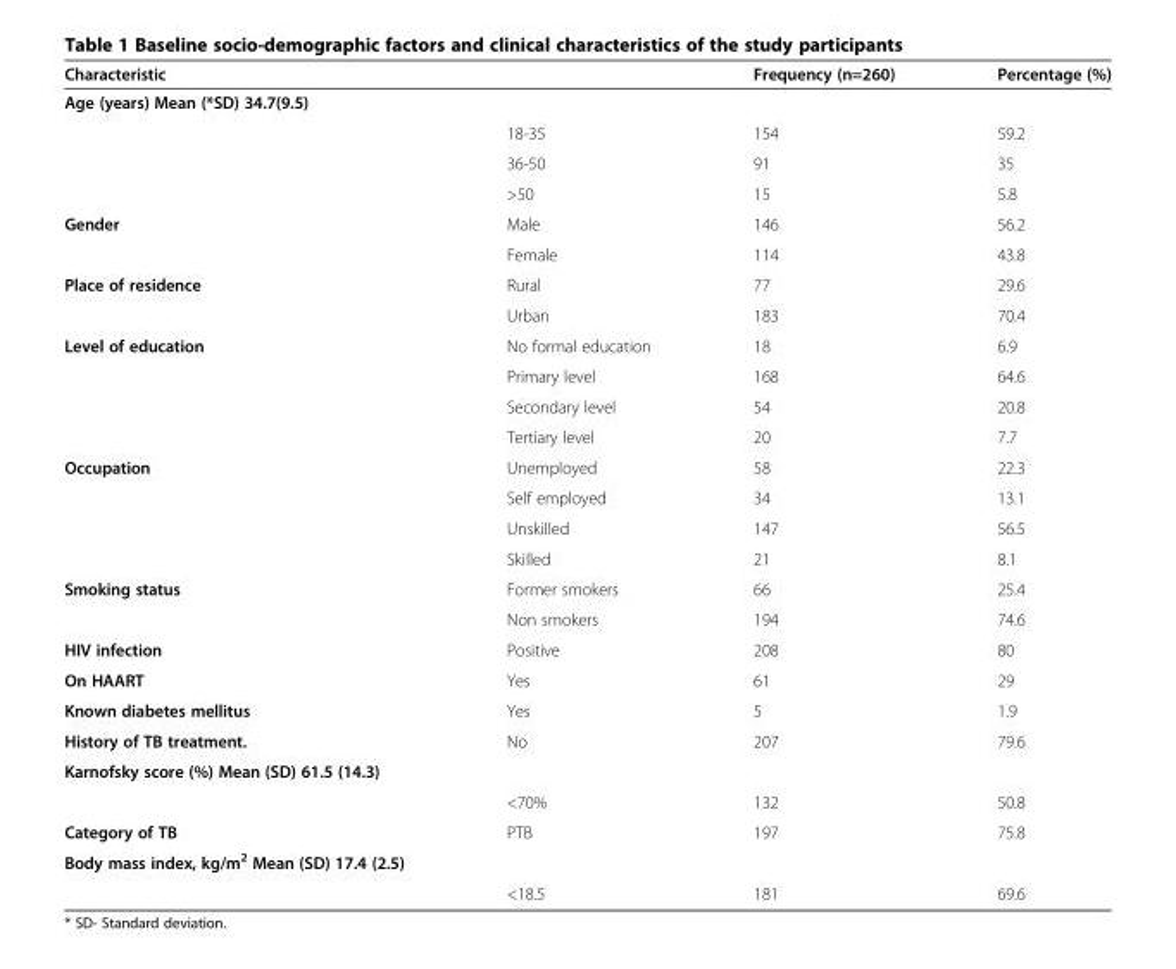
<table><thead><tr><td>Characteristic</td><td></td><td>Frequency (n=260)</td><td>Percentage (%)</td></tr></thead><tbody><tr><td colspan="4">Age (years) Mean (*SD) 34.7(9.5)</td></tr><tr><td></td><td>18-35</td><td>154</td><td>59.2</td></tr><tr><td></td><td>36-50</td><td>91</td><td>35</td></tr><tr><td></td><td>&gt;50</td><td>15</td><td>5.8</td></tr><tr><td rowspan="2">Gender</td><td>Male</td><td>146</td><td>56.2</td></tr><tr><td>Female</td><td>114</td><td>43.8</td></tr><tr><td rowspan="2">Place of residence</td><td>Rural</td><td>77</td><td>29.6</td></tr><tr><td>Urban</td><td>183</td><td>70.4</td></tr><tr><td rowspan="4">Level of education</td><td>No formal education</td><td>18</td><td>6.9</td></tr><tr><td>Primary level</td><td>168</td><td>64.6</td></tr><tr><td>Secondary level</td><td>54</td><td>20.8</td></tr><tr><td>Tertiary level</td><td>20</td><td>7.7</td></tr><tr><td rowspan="4">Occupation</td><td>Unemployed</td><td>58</td><td>22.3</td></tr><tr><td>Self employed</td><td>34</td><td>13.1</td></tr><tr><td>Unskilled</td><td>147</td><td>56.5</td></tr><tr><td>Skilled</td><td>21</td><td>8.1</td></tr><tr><td rowspan="2">Smoking status</td><td>Former smokers</td><td>66</td><td>25.4</td></tr><tr><td>Non smokers</td><td>194</td><td>74.6</td></tr><tr><td>HIV infection</td><td>Positive</td><td>208</td><td>80</td></tr><tr><td>On HAART</td><td>Yes</td><td>61</td><td>29</td></tr><tr><td>Known diabetes mellitus</td><td>Yes</td><td>5</td><td>1.9</td></tr><tr><td>History of TB treatment.</td><td>No</td><td>207</td><td>79.6</td></tr><tr><td colspan="4">Karnofsky score (%) Mean (SD) 61.5 (14.3)</td></tr><tr><td></td><td>&lt;70%</td><td>132</td><td>50.8</td></tr><tr><td>Category of TB</td><td>PTB</td><td>197</td><td>75.8</td></tr><tr><td colspan="4">Body mass index, kg/m<sup>2</sup> Mean (SD) 17.4 (2.5)</td></tr><tr><td></td><td>&lt;18.5</td><td>181</td><td>69.6</td></tr></tbody></table>